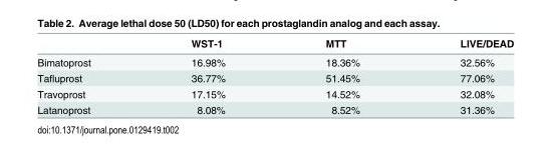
<table><thead><tr><td></td><td>WST-1</td><td>MTT</td><td>LIVE/DEAD</td></tr></thead><tbody><tr><td>Bimatoprost</td><td>16.98%</td><td>18.36%</td><td>32.56%</td></tr><tr><td>Tafluprost</td><td>36.77%</td><td>51.45%</td><td>77.06%</td></tr><tr><td>Travoprost</td><td>17.15%</td><td>14.52%</td><td>32.08%</td></tr><tr><td>Latanoprost</td><td>8.08%</td><td>8.52%</td><td>31.36%</td></tr></tbody></table>